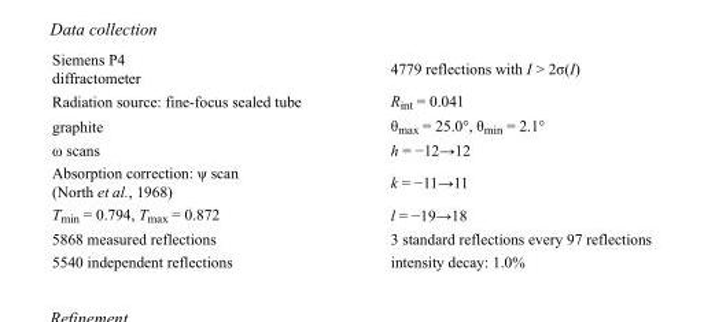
<table><tbody><tr><td>Siemens P4 diffractometer</td><td>4779 reflections with I &gt; 2σ(I)</td></tr><tr><td>Radiation source: fine-focus sealed tube</td><td>R<sub>int</sub> = 0.041</td></tr><tr><td>graphite</td><td>θ<sub>max</sub> = 25.0°, θ<sub>min</sub> = 2.1°</td></tr><tr><td>ω scans</td><td>h = −12→12</td></tr><tr><td>Absorption correction: ψ scan (North et al., 1968)</td><td>k = −11→11</td></tr><tr><td>T<sub>min</sub> = 0.794, T<sub>max</sub> = 0.872</td><td>l = −19→18</td></tr><tr><td>5868 measured reflections</td><td>3 standard reflections every 97 reflections</td></tr><tr><td>5540 independent reflections</td><td>intensity decay: 1.0%</td></tr></tbody></table>